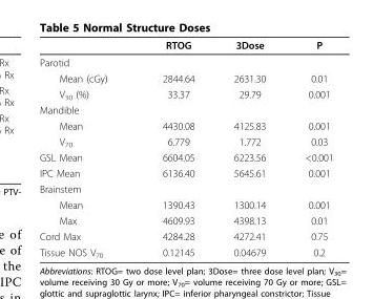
<table><thead><tr><td></td><td>RTOG</td><td>3Dose</td><td>P</td></tr></thead><tbody><tr><td colspan="4">Parotid</td></tr><tr><td>Mean (cGy)</td><td>2844.64</td><td>2631.30</td><td>0.01</td></tr><tr><td>V<sub>30</sub> (%)</td><td>33.37</td><td>29.79</td><td>0.001</td></tr><tr><td colspan="4">Mandible</td></tr><tr><td>Mean</td><td>4430.08</td><td>4125.83</td><td>0.001</td></tr><tr><td>V<sub>70</sub></td><td>6.779</td><td>1.772</td><td>0.03</td></tr><tr><td>GSL Mean</td><td>6604.05</td><td>6223.56</td><td>&lt;0.001</td></tr><tr><td>IPC Mean</td><td>6136.40</td><td>5645.61</td><td>0.001</td></tr><tr><td colspan="4">Brainstem</td></tr><tr><td>Mean</td><td>1390.43</td><td>1300.14</td><td>0.001</td></tr><tr><td>Max</td><td>4609.93</td><td>4398.13</td><td>0.01</td></tr><tr><td>Cord Max</td><td>4284.28</td><td>4272.41</td><td>0.75</td></tr><tr><td>Tissue NOS V<sub>70</sub></td><td>0.12145</td><td>0.04679</td><td>0.2</td></tr></tbody></table>